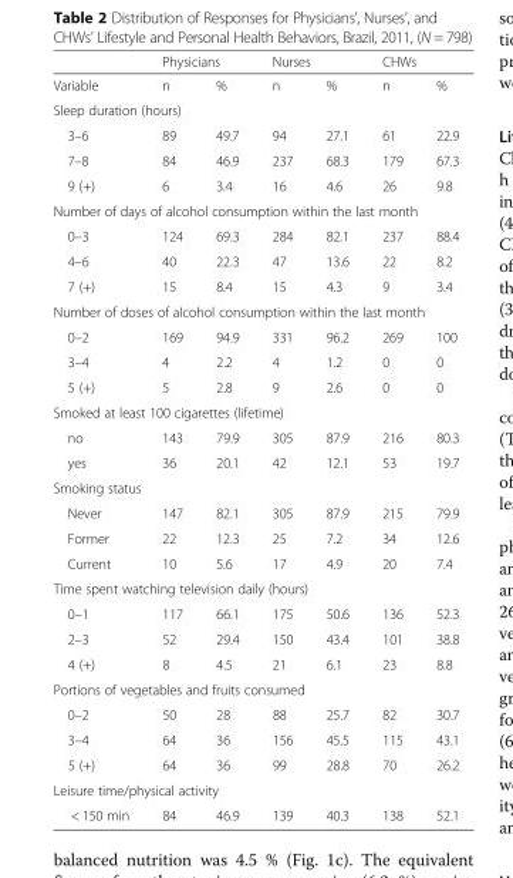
<table><thead><tr><td rowspan="2">Variable</td><td colspan="2">Physicians</td><td colspan="2">Nurses</td><td colspan="2">CHWs</td></tr><tr><td>n</td><td>%</td><td>n</td><td>%</td><td>n</td><td>%</td></tr></thead><tbody><tr><td colspan="7">Sleep duration (hours)</td></tr><tr><td>3–6</td><td>89</td><td>49.7</td><td>94</td><td>27.1</td><td>61</td><td>22.9</td></tr><tr><td>7–8</td><td>84</td><td>46.9</td><td>237</td><td>68.3</td><td>179</td><td>67.3</td></tr><tr><td>9 (+)</td><td>6</td><td>3.4</td><td>16</td><td>4.6</td><td>26</td><td>9.8</td></tr><tr><td colspan="7">Number of days of alcohol consumption within the last month</td></tr><tr><td>0–3</td><td>124</td><td>69.3</td><td>284</td><td>82.1</td><td>237</td><td>88.4</td></tr><tr><td>4–6</td><td>40</td><td>22.3</td><td>47</td><td>13.6</td><td>22</td><td>8.2</td></tr><tr><td>7 (+)</td><td>15</td><td>8.4</td><td>15</td><td>4.3</td><td>9</td><td>3.4</td></tr><tr><td colspan="7">Number of doses of alcohol consumption within the last month</td></tr><tr><td>0–2</td><td>169</td><td>94.9</td><td>331</td><td>96.2</td><td>269</td><td>100</td></tr><tr><td>3–4</td><td>4</td><td>2.2</td><td>4</td><td>1.2</td><td>0</td><td>0</td></tr><tr><td>5 (+)</td><td>5</td><td>2.8</td><td>9</td><td>2.6</td><td>0</td><td>0</td></tr><tr><td colspan="7">Smoked at least 100 cigarettes (lifetime)</td></tr><tr><td>no</td><td>143</td><td>79.9</td><td>305</td><td>87.9</td><td>216</td><td>80.3</td></tr><tr><td>yes</td><td>36</td><td>20.1</td><td>42</td><td>12.1</td><td>53</td><td>19.7</td></tr><tr><td colspan="7">Smoking status</td></tr><tr><td>Never</td><td>147</td><td>82.1</td><td>305</td><td>87.9</td><td>215</td><td>79.9</td></tr><tr><td>Former</td><td>22</td><td>12.3</td><td>25</td><td>7.2</td><td>34</td><td>12.6</td></tr><tr><td>Current</td><td>10</td><td>5.6</td><td>17</td><td>4.9</td><td>20</td><td>7.4</td></tr><tr><td colspan="7">Time spent watching television daily (hours)</td></tr><tr><td>0–1</td><td>117</td><td>66.1</td><td>175</td><td>50.6</td><td>136</td><td>52.3</td></tr><tr><td>2–3</td><td>52</td><td>29.4</td><td>150</td><td>43.4</td><td>101</td><td>38.8</td></tr><tr><td>4 (+)</td><td>8</td><td>4.5</td><td>21</td><td>6.1</td><td>23</td><td>8.8</td></tr><tr><td colspan="7">Portions of vegetables and fruits consumed</td></tr><tr><td>0–2</td><td>50</td><td>28</td><td>88</td><td>25.7</td><td>82</td><td>30.7</td></tr><tr><td>3–4</td><td>64</td><td>36</td><td>156</td><td>45.5</td><td>115</td><td>43.1</td></tr><tr><td>5 (+)</td><td>64</td><td>36</td><td>99</td><td>28.8</td><td>70</td><td>26.2</td></tr><tr><td colspan="7">Leisure time/physical activity</td></tr><tr><td>&lt; 150 min</td><td>84</td><td>46.9</td><td>139</td><td>40.3</td><td>138</td><td>52.1</td></tr></tbody></table>